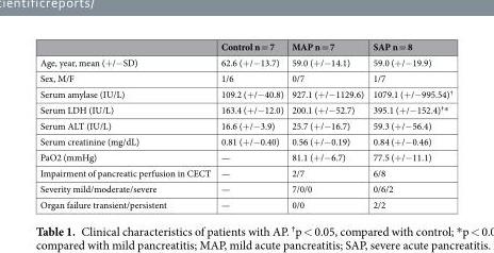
<table><thead><tr><td></td><td>Control n = 7</td><td>MAP n = 7</td><td>SAP n = 8</td></tr></thead><tbody><tr><td>Age, year, mean (+/−SD)</td><td>62.6 (+/−13.7)</td><td>59.0 (+/−14.1)</td><td>59.0 (+/−19.9)</td></tr><tr><td>Sex, M/F</td><td>1/6</td><td>0/7</td><td>1/7</td></tr><tr><td>Serum amylase (IU/L)</td><td>109.2 (+/−40.8)</td><td>927.1 (+/−1129.6)</td><td>1079.1 (+/−995.54)<sup>†</sup></td></tr><tr><td>Serum LDH (IU/L)</td><td>163.4 (+/−12.0)</td><td>200.1 (+/−52.7)</td><td>395.1 (+/−152.4)<sup>†</sup>*</td></tr><tr><td>Serum ALT (IU/L)</td><td>16.6 (+/−3.9)</td><td>25.7 (+/−16.7)</td><td>59.3 (+/−56.4)</td></tr><tr><td>Serum creatinine (mg/dL)</td><td>0.81 (+/−0.40)</td><td>0.56 (+/−0.19)</td><td>0.84 (+/−0.46)</td></tr><tr><td>PaO2 (mmHg)</td><td>—</td><td>81.1 (+/−6.7)</td><td>77.5 (+/−11.1)</td></tr><tr><td>Impairment of pancreatic perfusion in CECT</td><td>—</td><td>2/7</td><td>6/8</td></tr><tr><td>Severity mild/moderate/severe</td><td>—</td><td>7/0/0</td><td>0/6/2</td></tr><tr><td>Organ failure transient/persistent</td><td>—</td><td>0/0</td><td>2/2</td></tr></tbody></table>